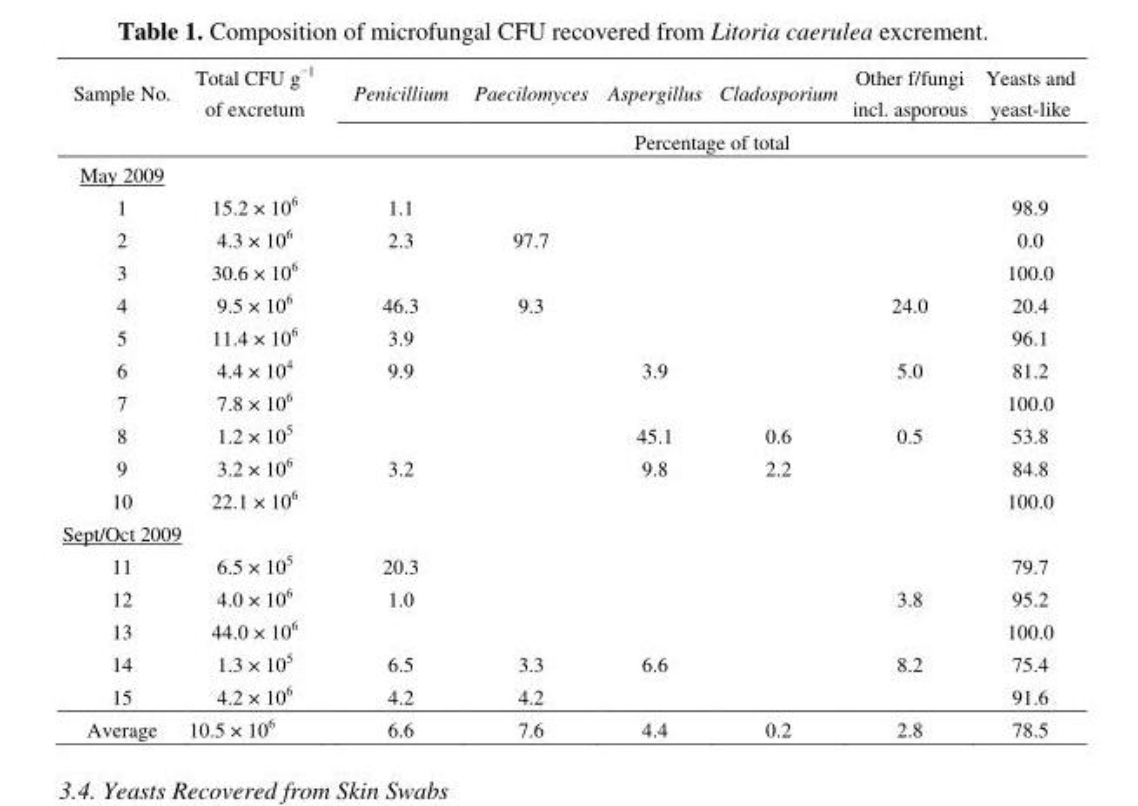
<table><thead><tr><td rowspan="2">Sample No.</td><td rowspan="2">Total CFU g<sup>−1</sup> of excretum</td><td>Penicillium</td><td>Paecilomyces</td><td>Aspergillus</td><td>Cladosporium</td><td>Other f/fungi incl. asporous</td><td>Yeasts and yeast-like</td></tr><tr><td colspan="6">Percentage of total</td></tr></thead><tbody><tr><td colspan="8">May 2009</td></tr><tr><td>1</td><td>15.2 × 10<sup>6</sup></td><td>1.1</td><td></td><td></td><td></td><td></td><td>98.9</td></tr><tr><td>2</td><td>4.3 × 10<sup>6</sup></td><td>2.3</td><td>97.7</td><td></td><td></td><td></td><td>0.0</td></tr><tr><td>3</td><td>30.6 × 10<sup>6</sup></td><td></td><td></td><td></td><td></td><td></td><td>100.0</td></tr><tr><td>4</td><td>9.5 × 10<sup>6</sup></td><td>46.3</td><td>9.3</td><td></td><td></td><td>24.0</td><td>20.4</td></tr><tr><td>5</td><td>11.4 × 10<sup>6</sup></td><td>3.9</td><td></td><td></td><td></td><td></td><td>96.1</td></tr><tr><td>6</td><td>4.4 × 10<sup>4</sup></td><td>9.9</td><td></td><td>3.9</td><td></td><td>5.0</td><td>81.2</td></tr><tr><td>7</td><td>7.8 × 10<sup>6</sup></td><td></td><td></td><td></td><td></td><td></td><td>100.0</td></tr><tr><td>8</td><td>1.2 × 10<sup>5</sup></td><td></td><td></td><td>45.1</td><td>0.6</td><td>0.5</td><td>53.8</td></tr><tr><td>9</td><td>3.2 × 10<sup>6</sup></td><td>3.2</td><td></td><td>9.8</td><td>2.2</td><td></td><td>84.8</td></tr><tr><td>10</td><td>22.1 × 10<sup>6</sup></td><td></td><td></td><td></td><td></td><td></td><td>100.0</td></tr><tr><td colspan="8">Sept/Oct 2009</td></tr><tr><td>11</td><td>6.5 × 10<sup>5</sup></td><td>20.3</td><td></td><td></td><td></td><td></td><td>79.7</td></tr><tr><td>12</td><td>4.0 × 10<sup>6</sup></td><td>1.0</td><td></td><td></td><td></td><td>3.8</td><td>95.2</td></tr><tr><td>13</td><td>44.0 × 10<sup>6</sup></td><td></td><td></td><td></td><td></td><td></td><td>100.0</td></tr><tr><td>14</td><td>1.3 × 10<sup>5</sup></td><td>6.5</td><td>3.3</td><td>6.6</td><td></td><td>8.2</td><td>75.4</td></tr><tr><td>15</td><td>4.2 × 10<sup>6</sup></td><td>4.2</td><td>4.2</td><td></td><td></td><td></td><td>91.6</td></tr><tr><td>Average</td><td>10.5 × 10<sup>6</sup></td><td>6.6</td><td>7.6</td><td>4.4</td><td>0.2</td><td>2.8</td><td>78.5</td></tr></tbody></table>